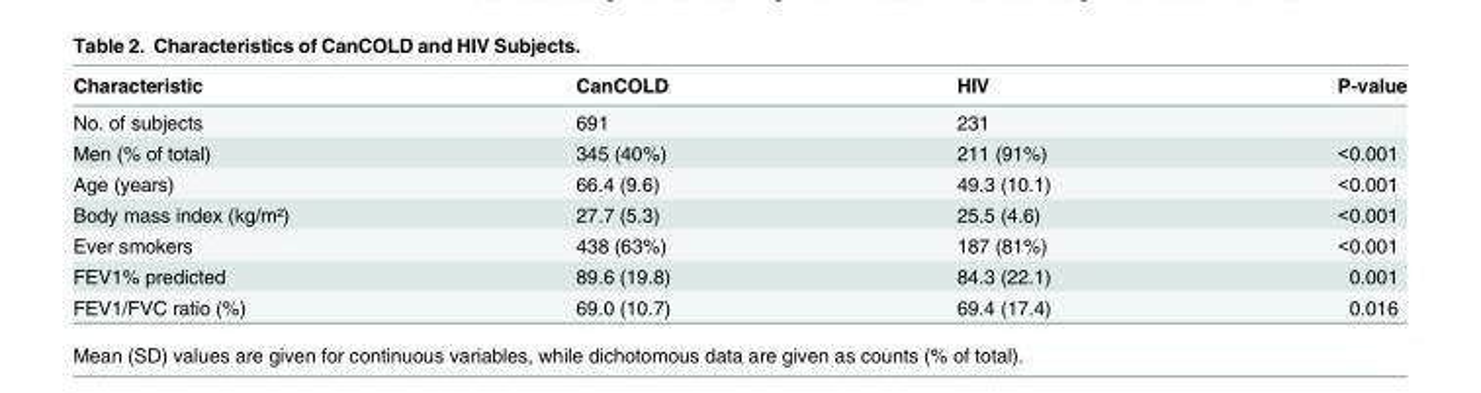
<table><thead><tr><td>Characteristic</td><td>CanCOLD</td><td>HIV</td><td>P-value</td></tr></thead><tbody><tr><td>No. of subjects</td><td>691</td><td>231</td><td></td></tr><tr><td>Men (% of total)</td><td>345 (40%)</td><td>211 (91%)</td><td>&lt;0.001</td></tr><tr><td>Age (years)</td><td>66.4 (9.6)</td><td>49.3 (10.1)</td><td>&lt;0.001</td></tr><tr><td>Body mass index (kg/m²)</td><td>27.7 (5.3)</td><td>25.5 (4.6)</td><td>&lt;0.001</td></tr><tr><td>Ever smokers</td><td>438 (63%)</td><td>187 (81%)</td><td>&lt;0.001</td></tr><tr><td>FEV1% predicted</td><td>89.6 (19.8)</td><td>84.3 (22.1)</td><td>0.001</td></tr><tr><td>FEV1/FVC ratio (%)</td><td>69.0 (10.7)</td><td>69.4 (17.4)</td><td>0.016</td></tr></tbody></table>